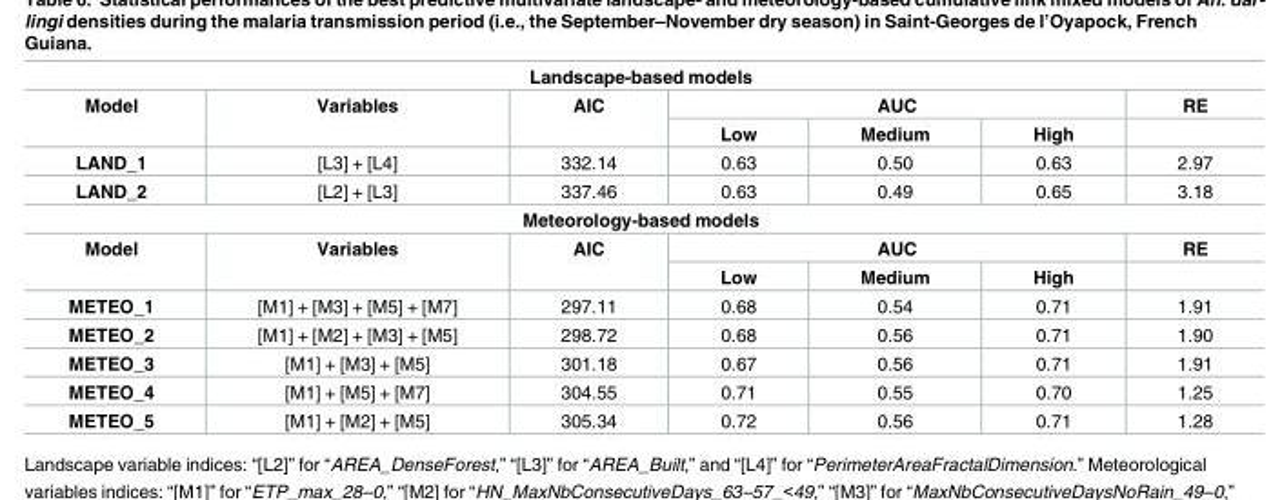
<table><tbody><tr><td colspan="7">Landscape-based models</td></tr><tr><td rowspan="2">Model</td><td rowspan="2">Variables</td><td rowspan="2">AIC</td><td colspan="3">AUC</td><td>RE</td></tr><tr><td>Low</td><td>Medium</td><td>High</td><td></td></tr><tr><td>LAND_1</td><td>[L3] + [L4]</td><td>332.14</td><td>0.63</td><td>0.50</td><td>0.63</td><td>2.97</td></tr><tr><td>LAND_2</td><td>[L2] + [L3]</td><td>337.46</td><td>0.63</td><td>0.49</td><td>0.65</td><td>3.18</td></tr><tr><td colspan="7">Meteorology-based models</td></tr><tr><td rowspan="2">Model</td><td rowspan="2">Variables</td><td rowspan="2">AIC</td><td colspan="3">AUC</td><td>RE</td></tr><tr><td>Low</td><td>Medium</td><td>High</td><td></td></tr><tr><td>METEO_1</td><td>[M1] + [M3] + [M5] + [M7]</td><td>297.11</td><td>0.68</td><td>0.54</td><td>0.71</td><td>1.91</td></tr><tr><td>METEO_2</td><td>[M1] + [M2] + [M3] + [M5]</td><td>298.72</td><td>0.68</td><td>0.56</td><td>0.71</td><td>1.90</td></tr><tr><td>METEO_3</td><td>[M1] + [M3] + [M5]</td><td>301.18</td><td>0.67</td><td>0.56</td><td>0.71</td><td>1.91</td></tr><tr><td>METEO_4</td><td>[M1] + [M5] + [M7]</td><td>304.55</td><td>0.71</td><td>0.55</td><td>0.70</td><td>1.25</td></tr><tr><td>METEO_5</td><td>[M1] + [M2] + [M5]</td><td>305.34</td><td>0.72</td><td>0.56</td><td>0.71</td><td>1.28</td></tr></tbody></table>